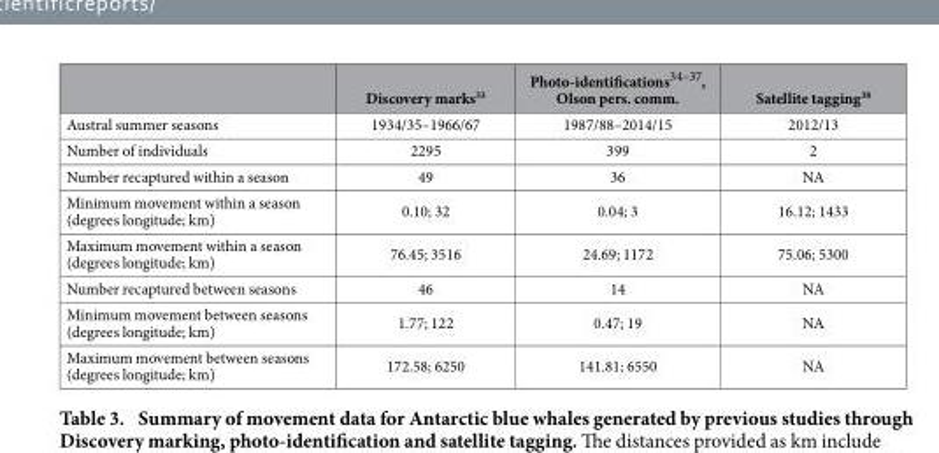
<table><thead><tr><td></td><td>Discovery marks<sup>33</sup></td><td>Photo-identifications34–37, Olson pers. comm.</td><td>Satellite tagging38</td></tr></thead><tbody><tr><td>Austral summer seasons</td><td>1934/35–1966/67</td><td>1987/88–2014/15</td><td>2012/13</td></tr><tr><td>Number of individuals</td><td>2295</td><td>399</td><td>2</td></tr><tr><td>Number recaptured within a season</td><td>49</td><td>36</td><td>NA</td></tr><tr><td>Minimum movement within a season (degrees longitude; km)</td><td>0.10; 32</td><td>0.04; 3</td><td>16.12; 1433</td></tr><tr><td>Maximum movement within a season (degrees longitude; km)</td><td>76.45; 3516</td><td>24.69; 1172</td><td>75.06; 5300</td></tr><tr><td>Number recaptured between seasons</td><td>46</td><td>14</td><td>NA</td></tr><tr><td>Minimum movement between seasons (degrees longitude; km)</td><td>1.77; 122</td><td>0.47; 19</td><td>NA</td></tr><tr><td>Maximum movement between seasons (degrees longitude; km)</td><td>172.58; 6250</td><td>141.81; 6550</td><td>NA</td></tr></tbody></table>